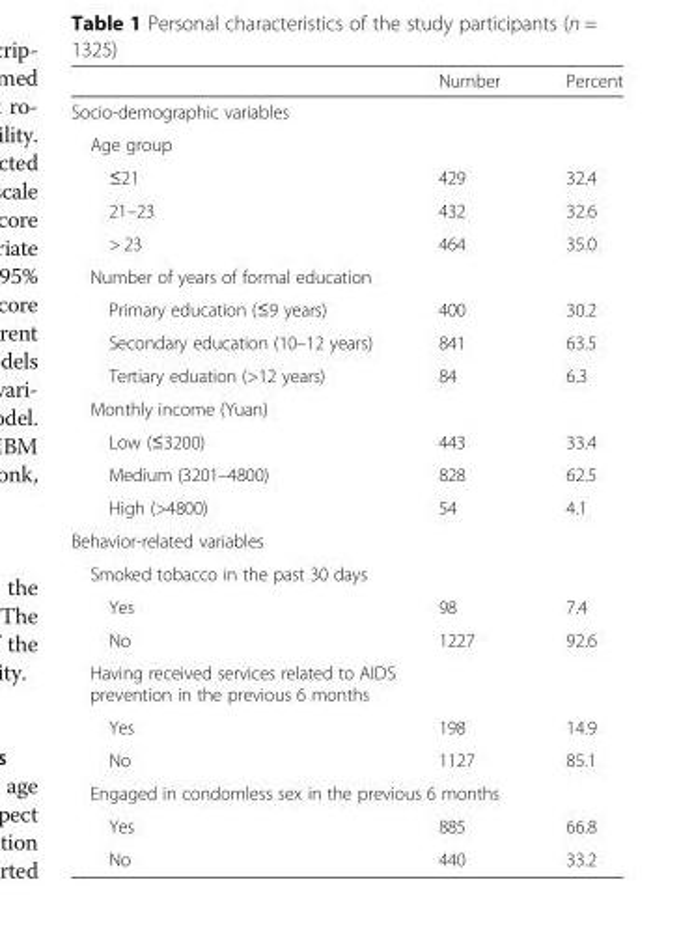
<table><thead><tr><td></td><td>Number</td><td>Percent</td></tr></thead><tbody><tr><td colspan="3">Socio-demographic variables</td></tr><tr><td colspan="3">Age group</td></tr><tr><td>≤21</td><td>429</td><td>32.4</td></tr><tr><td>21–23</td><td>432</td><td>32.6</td></tr><tr><td>&gt; 23</td><td>464</td><td>35.0</td></tr><tr><td colspan="3">Number of years of formal education</td></tr><tr><td>Primary education (≤9 years)</td><td>400</td><td>30.2</td></tr><tr><td>Secondary education (10–12 years)</td><td>841</td><td>63.5</td></tr><tr><td>Tertiary eduation (&gt;12 years)</td><td>84</td><td>6.3</td></tr><tr><td colspan="3">Monthly income (Yuan)</td></tr><tr><td>Low (≤3200)</td><td>443</td><td>33.4</td></tr><tr><td>Medium (3201–4800)</td><td>828</td><td>62.5</td></tr><tr><td>High (&gt;4800)</td><td>54</td><td>4.1</td></tr><tr><td colspan="3">Behavior-related variables</td></tr><tr><td colspan="3">Smoked tobacco in the past 30 days</td></tr><tr><td>Yes</td><td>98</td><td>7.4</td></tr><tr><td>No</td><td>1227</td><td>92.6</td></tr><tr><td colspan="3">Having received services related to AIDS prevention in the previous 6 months</td></tr><tr><td>Yes</td><td>198</td><td>14.9</td></tr><tr><td>No</td><td>1127</td><td>85.1</td></tr><tr><td colspan="3">Engaged in condomless sex in the previous 6 months</td></tr><tr><td>Yes</td><td>885</td><td>66.8</td></tr><tr><td>No</td><td>440</td><td>33.2</td></tr></tbody></table>